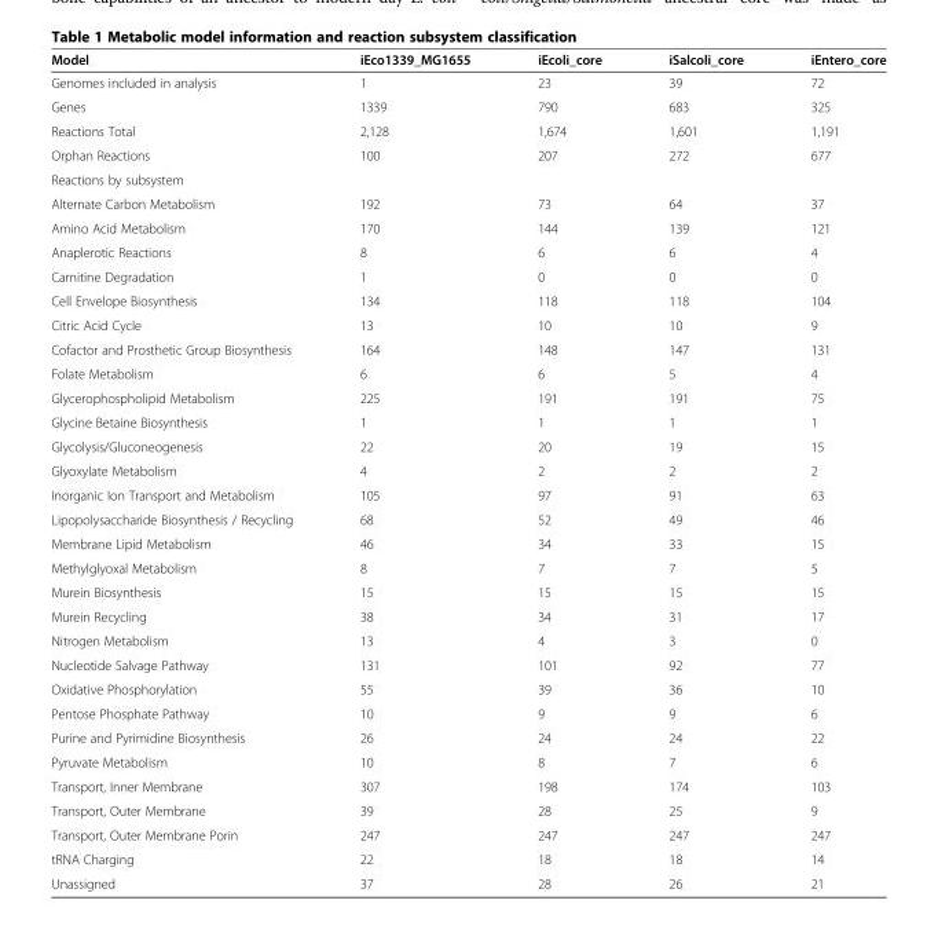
<table><thead><tr><td>Model</td><td>iEco1339_MG1655</td><td>iEcoli_core</td><td>iSalcoli_core</td><td>iEntero_core</td></tr></thead><tbody><tr><td>Genomes included in analysis</td><td>1</td><td>23</td><td>39</td><td>72</td></tr><tr><td>Genes</td><td>1339</td><td>790</td><td>683</td><td>325</td></tr><tr><td>Reactions Total</td><td>2,128</td><td>1,674</td><td>1,601</td><td>1,191</td></tr><tr><td>Orphan Reactions</td><td>100</td><td>207</td><td>272</td><td>677</td></tr><tr><td colspan="5">Reactions by subsystem</td></tr><tr><td>Alternate Carbon Metabolism</td><td>192</td><td>73</td><td>64</td><td>37</td></tr><tr><td>Amino Acid Metabolism</td><td>170</td><td>144</td><td>139</td><td>121</td></tr><tr><td>Anaplerotic Reactions</td><td>8</td><td>6</td><td>6</td><td>4</td></tr><tr><td>Carnitine Degradation</td><td>1</td><td>0</td><td>0</td><td>0</td></tr><tr><td>Cell Envelope Biosynthesis</td><td>134</td><td>118</td><td>118</td><td>104</td></tr><tr><td>Citric Acid Cycle</td><td>13</td><td>10</td><td>10</td><td>9</td></tr><tr><td>Cofactor and Prosthetic Group Biosynthesis</td><td>164</td><td>148</td><td>147</td><td>131</td></tr><tr><td>Folate Metabolism</td><td>6</td><td>6</td><td>5</td><td>4</td></tr><tr><td>Glycerophospholipid Metabolism</td><td>225</td><td>191</td><td>191</td><td>75</td></tr><tr><td>Glycine Betaine Biosynthesis</td><td>1</td><td>1</td><td>1</td><td>1</td></tr><tr><td>Glycolysis/Gluconeogenesis</td><td>22</td><td>20</td><td>19</td><td>15</td></tr><tr><td>Glyoxylate Metabolism</td><td>4</td><td>2</td><td>2</td><td>2</td></tr><tr><td>Inorganic Ion Transport and Metabolism</td><td>105</td><td>97</td><td>91</td><td>63</td></tr><tr><td>Lipopolysaccharide Biosynthesis / Recycling</td><td>68</td><td>52</td><td>49</td><td>46</td></tr><tr><td>Membrane Lipid Metabolism</td><td>46</td><td>34</td><td>33</td><td>15</td></tr><tr><td>Methylglyoxal Metabolism</td><td>8</td><td>7</td><td>7</td><td>5</td></tr><tr><td>Murein Biosynthesis</td><td>15</td><td>15</td><td>15</td><td>15</td></tr><tr><td>Murein Recycling</td><td>38</td><td>34</td><td>31</td><td>17</td></tr><tr><td>Nitrogen Metabolism</td><td>13</td><td>4</td><td>3</td><td>0</td></tr><tr><td>Nucleotide Salvage Pathway</td><td>131</td><td>101</td><td>92</td><td>77</td></tr><tr><td>Oxidative Phosphorylation</td><td>55</td><td>39</td><td>36</td><td>10</td></tr><tr><td>Pentose Phosphate Pathway</td><td>10</td><td>9</td><td>9</td><td>6</td></tr><tr><td>Purine and Pyrimidine Biosynthesis</td><td>26</td><td>24</td><td>24</td><td>22</td></tr><tr><td>Pyruvate Metabolism</td><td>10</td><td>8</td><td>7</td><td>6</td></tr><tr><td>Transport, Inner Membrane</td><td>307</td><td>198</td><td>174</td><td>103</td></tr><tr><td>Transport, Outer Membrane</td><td>39</td><td>28</td><td>25</td><td>9</td></tr><tr><td>Transport, Outer Membrane Porin</td><td>247</td><td>247</td><td>247</td><td>247</td></tr><tr><td>tRNA Charging</td><td>22</td><td>18</td><td>18</td><td>14</td></tr><tr><td>Unassigned</td><td>37</td><td>28</td><td>26</td><td>21</td></tr></tbody></table>